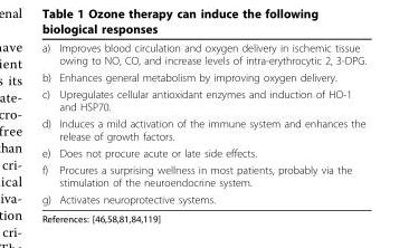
<table><tbody><tr><td>a)</td><td>Improves blood circulation and oxygen delivery in ischemic tissue owing to NO, CO, and increase levels of intra-erythrocytic 2, 3-DPG.</td></tr><tr><td>b)</td><td>Enhances general metabolism by improving oxygen delivery.</td></tr><tr><td>c)</td><td>Upregulates cellular antioxidant enzymes and induction of HO-1 and HSP70.</td></tr><tr><td>d)</td><td>Induces a mild activation of the immune system and enhances the release of growth factors.</td></tr><tr><td>e)</td><td>Does not procure acute or late side effects.</td></tr><tr><td>f)</td><td>Procures a surprising wellness in most patients, probably via the stimulation of the neuroendocrine system.</td></tr><tr><td>g)</td><td>Activates neuroprotective systems.</td></tr></tbody></table>